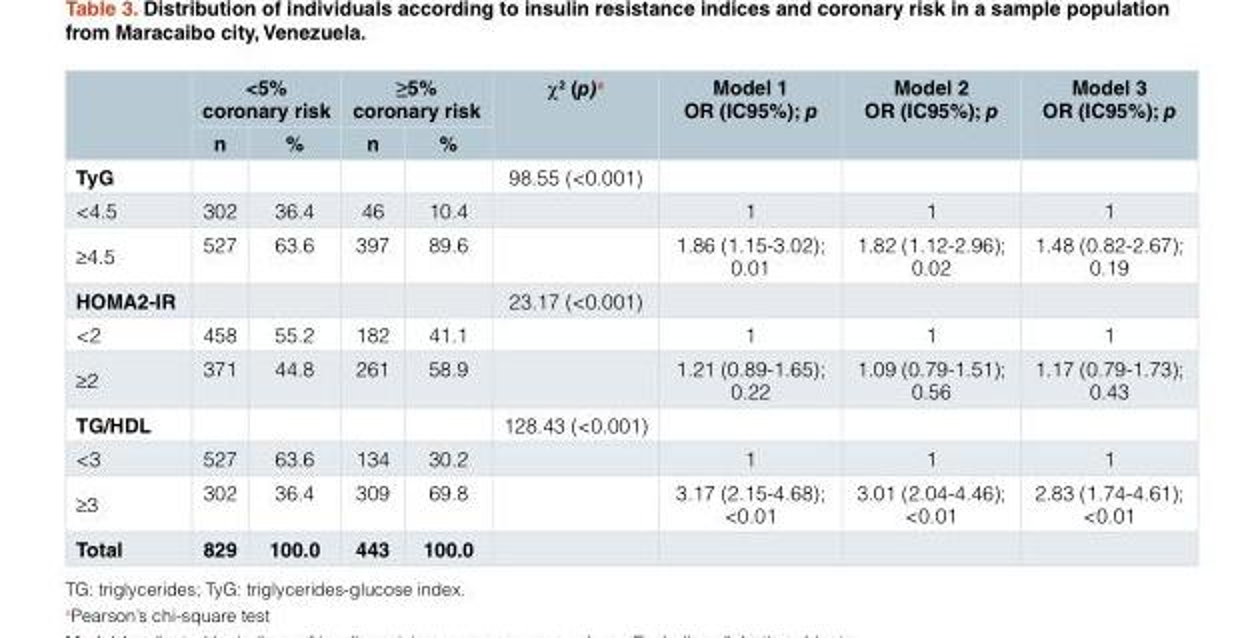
<table><thead><tr><td rowspan="2"></td><td colspan="2">&lt;5% coronary risk</td><td colspan="2">≥5% coronary risk</td><td rowspan="2">χ<sup>2</sup> (p)<sup>a</sup></td><td rowspan="2">Model 1 OR (IC95%); p</td><td rowspan="2">Model 2 OR (IC95%); p</td><td rowspan="2">Model 3 OR (IC95%); p</td></tr><tr><td>n</td><td>%</td><td>n</td><td>%</td></tr></thead><tbody><tr><td>TyG</td><td></td><td></td><td></td><td></td><td>98.55 (&lt;0.001)</td><td></td><td></td><td></td></tr><tr><td>&lt;4.5</td><td>302</td><td>36.4</td><td>46</td><td>10.4</td><td></td><td>1</td><td>1</td><td>1</td></tr><tr><td>≥4.5</td><td>527</td><td>63.6</td><td>397</td><td>89.6</td><td></td><td>1.86 (1.15-3.02); 0.01</td><td>1.82 (1.12-2.96); 0.02</td><td>1.48 (0.82-2.67); 0.19</td></tr><tr><td>HOMA2-IR</td><td></td><td></td><td></td><td></td><td>23.17 (&lt;0.001)</td><td></td><td></td><td></td></tr><tr><td>&lt;2</td><td>458</td><td>55.2</td><td>182</td><td>41.1</td><td></td><td>1</td><td>1</td><td>1</td></tr><tr><td>≥2</td><td>371</td><td>44.8</td><td>261</td><td>58.9</td><td></td><td>1.21 (0.89-1.65); 0.22</td><td>1.09 (0.79-1.51); 0.56</td><td>1.17 (0.79-1.73); 0.43</td></tr><tr><td>TG/HDL</td><td></td><td></td><td></td><td></td><td>128.43 (&lt;0.001)</td><td></td><td></td><td></td></tr><tr><td>&lt;3</td><td>527</td><td>63.6</td><td>134</td><td>30.2</td><td></td><td>1</td><td>1</td><td>1</td></tr><tr><td>≥3</td><td>302</td><td>36.4</td><td>309</td><td>69.8</td><td></td><td>3.17 (2.15-4.68); &lt;0.01</td><td>3.01 (2.04-4.46); &lt;0.01</td><td>2.83 (1.74-4.61); &lt;0.01</td></tr><tr><td>Total</td><td>829</td><td>100.0</td><td>443</td><td>100.0</td><td></td><td></td><td></td><td></td></tr></tbody></table>